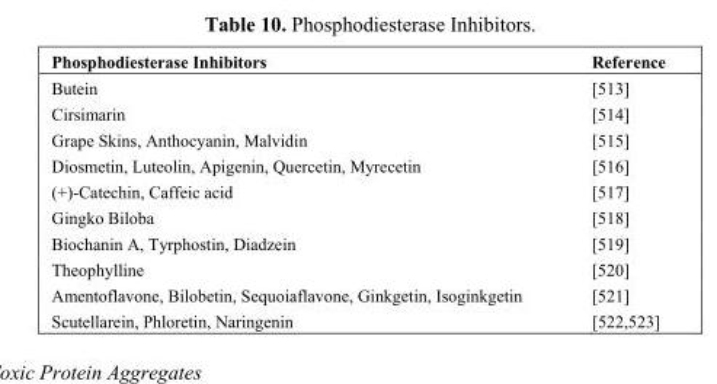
<table><thead><tr><td>Phosphodiesterase Inhibitors</td><td>Reference</td></tr></thead><tbody><tr><td>Butein</td><td>[513]</td></tr><tr><td>Cirsimarin</td><td>[514]</td></tr><tr><td>Grape Skins, Anthocyanin, Malvidin</td><td>[515]</td></tr><tr><td>Diosmetin, Luteolin, Apigenin, Quercetin, Myrecetin</td><td>[516]</td></tr><tr><td>(+)-Catechin, Caffeic acid</td><td>[517]</td></tr><tr><td>Gingko Biloba</td><td>[518]</td></tr><tr><td>Biochanin A, Tyrphostin, Diadzein</td><td>[519]</td></tr><tr><td>Theophylline</td><td>[520]</td></tr><tr><td>Amentoflavone, Bilobetin, Sequoiaflavone, Ginkgetin, Isoginkgetin</td><td>[521]</td></tr><tr><td>Scutellarein, Phloretin, Naringenin</td><td>[522,523]</td></tr></tbody></table>